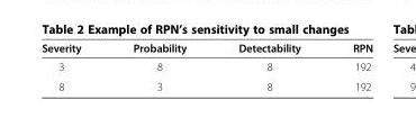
<table><thead><tr><td>Severity</td><td>Probability</td><td>Detectability</td><td>RPN</td></tr></thead><tbody><tr><td>3</td><td>8</td><td>8</td><td>192</td></tr><tr><td>8</td><td>3</td><td>8</td><td>192</td></tr></tbody></table>